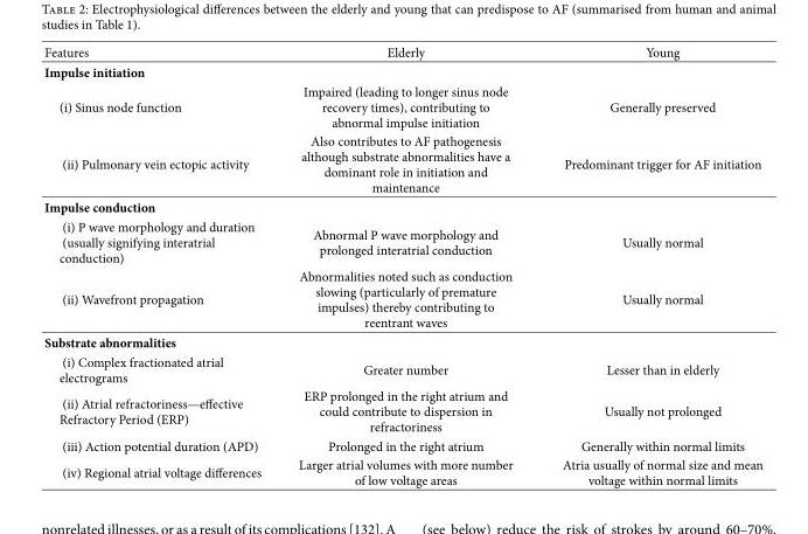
<table><thead><tr><td>Features</td><td>Elderly</td><td>Young</td></tr></thead><tbody><tr><td colspan="3">Impulse initiation</td></tr><tr><td>(i) Sinus node function</td><td>Impaired (leading to longer sinus node recovery times), contributing to abnormal impulse initiation</td><td>Generally preserved</td></tr><tr><td>(ii) Pulmonary vein ectopic activity</td><td>Also contributes to AF pathogenesis although substrate abnormalities have a dominant role in initiation and maintenance</td><td>Predominant trigger for AF initiation</td></tr><tr><td colspan="3">Impulse conduction</td></tr><tr><td>(i) P wave morphology and duration (usually signifying interatrial conduction)</td><td>Abnormal P wave morphology and prolonged interatrial conduction</td><td>Usually normal</td></tr><tr><td>(ii) Wavefront propagation</td><td>Abnormalities noted such as conduction slowing (particularly of premature impulses) thereby contributing to reentrant waves</td><td>Usually normal</td></tr><tr><td colspan="3">Substrate abnormalities</td></tr><tr><td>(i) Complex fractionated atrial electrograms</td><td>Greater number</td><td>Lesser than in elderly</td></tr><tr><td>(ii) Atrial refractoriness—effective Refractory Period (ERP)</td><td>ERP prolonged in the right atrium and could contribute to dispersion in refractoriness</td><td>Usually not prolonged</td></tr><tr><td>(iii) Action potential duration (APD)</td><td>Prolonged in the right atrium</td><td>Generally within normal limits</td></tr><tr><td>(iv) Regional atrial voltage differences</td><td>Larger atrial volumes with more number of low voltage areas</td><td>Atria usually of normal size and mean voltage within normal limits</td></tr></tbody></table>